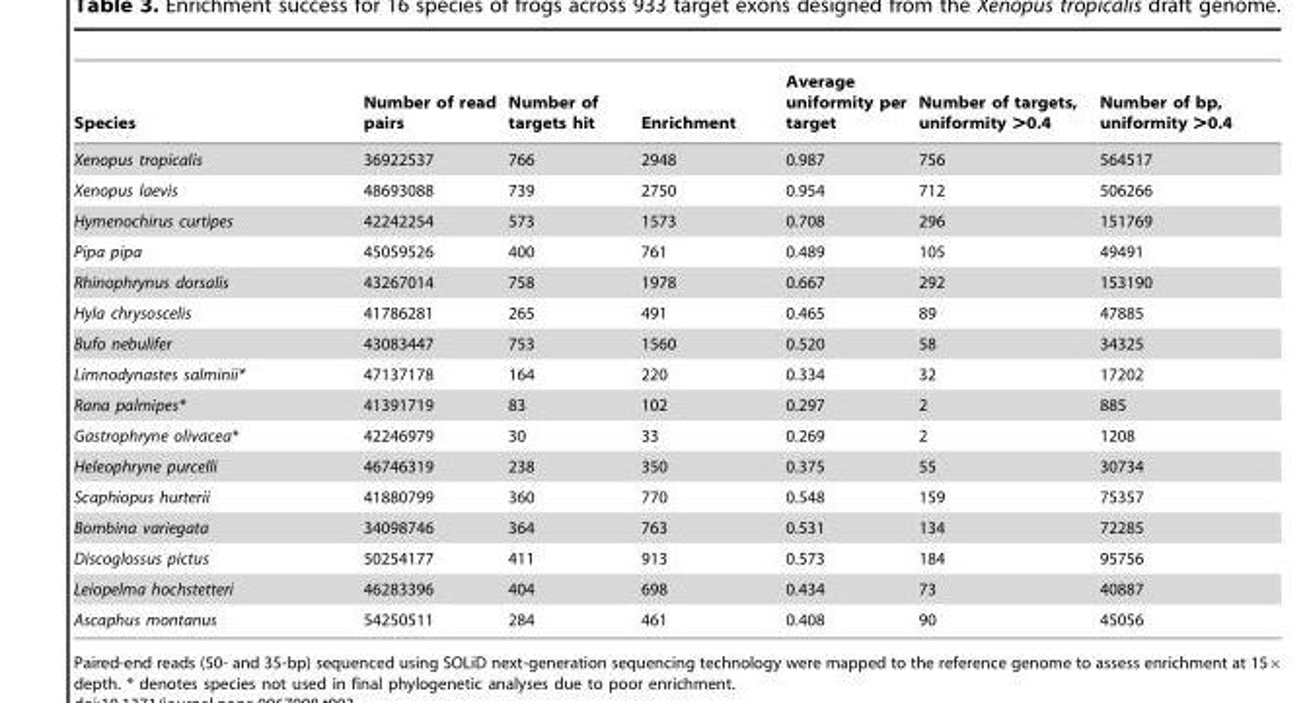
<table><thead><tr><td>Species</td><td>Number of read pairs</td><td>Number of targets hit</td><td>Enrichment</td><td>Average uniformity per target</td><td>Number of targets, uniformity &gt;0.4</td><td>Number of bp, uniformity &gt;0.4</td></tr></thead><tbody><tr><td>Xenopus tropicalis</td><td>36922537</td><td>766</td><td>2948</td><td>0.987</td><td>756</td><td>564517</td></tr><tr><td>Xenopus laevis</td><td>48693088</td><td>739</td><td>2750</td><td>0.954</td><td>712</td><td>506266</td></tr><tr><td>Hymenochirus curtipes</td><td>42242254</td><td>573</td><td>1573</td><td>0.708</td><td>296</td><td>151769</td></tr><tr><td>Pipa pipa</td><td>45059526</td><td>400</td><td>761</td><td>0.489</td><td>105</td><td>49491</td></tr><tr><td>Rhinophrynus dorsalis</td><td>43267014</td><td>758</td><td>1978</td><td>0.667</td><td>292</td><td>153190</td></tr><tr><td>Hyla chrysoscelis</td><td>41786281</td><td>265</td><td>491</td><td>0.465</td><td>89</td><td>47885</td></tr><tr><td>Bufo nebulifer</td><td>43083447</td><td>753</td><td>1560</td><td>0.520</td><td>58</td><td>34325</td></tr><tr><td>Limnodynastes salminii*</td><td>47137178</td><td>164</td><td>220</td><td>0.334</td><td>32</td><td>17202</td></tr><tr><td>Rana palmipes*</td><td>41391719</td><td>83</td><td>102</td><td>0.297</td><td>2</td><td>885</td></tr><tr><td>Gastrophryne olivacea*</td><td>42246979</td><td>30</td><td>33</td><td>0.269</td><td>2</td><td>1208</td></tr><tr><td>Heleophryne purcelli</td><td>46746319</td><td>238</td><td>350</td><td>0.375</td><td>55</td><td>30734</td></tr><tr><td>Scaphiopus hurterii</td><td>41880799</td><td>360</td><td>770</td><td>0.548</td><td>159</td><td>75357</td></tr><tr><td>Bombina variegata</td><td>34098746</td><td>364</td><td>763</td><td>0.531</td><td>134</td><td>72285</td></tr><tr><td>Discoglossus pictus</td><td>50254177</td><td>411</td><td>913</td><td>0.573</td><td>184</td><td>95756</td></tr><tr><td>Leiopelma hochstetteri</td><td>46283396</td><td>404</td><td>698</td><td>0.434</td><td>73</td><td>40887</td></tr><tr><td>Ascaphus montanus</td><td>54250511</td><td>284</td><td>461</td><td>0.408</td><td>90</td><td>45056</td></tr></tbody></table>